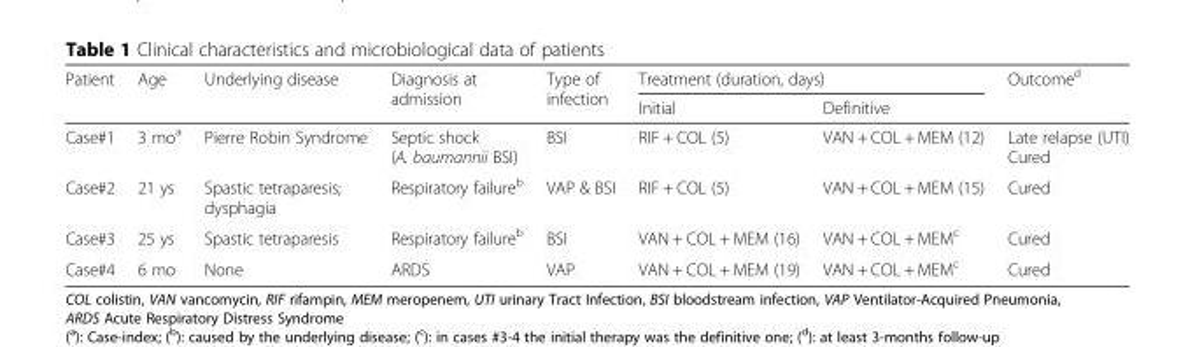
<table><thead><tr><td rowspan="2">Patient</td><td rowspan="2">Age</td><td rowspan="2">Underlying disease</td><td rowspan="2">Diagnosis at admission</td><td rowspan="2">Type of infection</td><td colspan="2">Treatment (duration, days)</td><td rowspan="2">Outcome<sup>d</sup></td></tr><tr><td>Initial</td><td>Definitive</td></tr></thead><tbody><tr><td>Case#1</td><td>3 mo<sup>a</sup></td><td>Pierre Robin Syndrome</td><td>Septic shock (A. baumannii BSI)</td><td>BSI</td><td>RIF + COL (5)</td><td>VAN + COL + MEM (12)</td><td>Late relapse (UTI) Cured</td></tr><tr><td>Case#2</td><td>21 ys</td><td>Spastic tetraparesis; dysphagia</td><td>Respiratory failure<sup>b</sup></td><td>VAP &amp; BSI</td><td>RIF + COL (5)</td><td>VAN + COL + MEM (15)</td><td>Cured</td></tr><tr><td>Case#3</td><td>25 ys</td><td>Spastic tetraparesis</td><td>Respiratory failure<sup>b</sup></td><td>BSI</td><td>VAN + COL + MEM (16)</td><td>VAN + COL + MEM<sup>c</sup></td><td>Cured</td></tr><tr><td>Case#4</td><td>6 mo</td><td>None</td><td>ARDS</td><td>VAP</td><td>VAN + COL + MEM (19)</td><td>VAN + COL + MEM<sup>c</sup></td><td>Cured</td></tr></tbody></table>